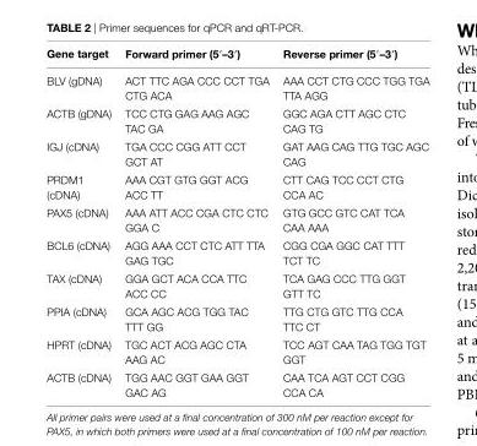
<table><thead><tr><td>gene target</td><td>Forward primer (5′–3′)</td><td>reverse primer (5′–3′)</td></tr></thead><tbody><tr><td>BLV (gDNA)</td><td>ACT TTC AGA CCC CCT TGA CTG ACA</td><td>AAA CCT CTG CCC TGG TGA TTA AGG</td></tr><tr><td>ACTB (gDNA)</td><td>TCC CTG GAG AAG AGC TAC GA</td><td>GGC AGA CTT AGC CTC CAG TG</td></tr><tr><td>IGJ (cDNA)</td><td>TGA CCC CGG ATT CCT GCT AT</td><td>GAT AAG CAG TTG TGC AGC CAG</td></tr><tr><td>PRDM1 (cDNA)</td><td>AAA CGT GTG GGT ACG ACC TT</td><td>CTT CAG TCC CCT CTG CCA AC</td></tr><tr><td>PAX5 (cDNA)</td><td>AAA ATT ACC CGA CTC CTC GGA C</td><td>GTG GCC GTC CAT TCA CAA AAA</td></tr><tr><td>BCL6 (cDNA)</td><td>AGG AAA CCT CTC ATT TTA GAG TGC</td><td>CGG CGA GGC CAT TTT TCT TC</td></tr><tr><td>TAX (cDNA)</td><td>GGA GCT ACA CCA TTC ACC CC</td><td>TCA GAG CCC TTG GGT GTT TC</td></tr><tr><td>PPIA (cDNA)</td><td>GCA AGC ACG TGG TAC TTT GG</td><td>TTG CTG GTC TTG CCA TTC CT</td></tr><tr><td>HPRT (cDNA)</td><td>TGC ACT ACG AGC CTA AAG AC</td><td>TCC AGT CAA TAG TGG TGT GGT</td></tr><tr><td>ACTB (cDNA)</td><td>TGG AAC GGT GAA GGT GAC AG</td><td>CAA TCA AGT CCT CGG CCA CA</td></tr></tbody></table>